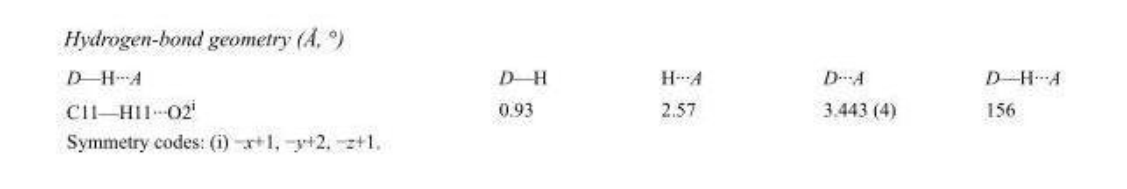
<table><tbody><tr><td>D—H···A</td><td>D—H</td><td>H···A</td><td>D···A</td><td>D—H···A</td></tr><tr><td>C11—H11···O2<sup>i</sup></td><td>0.93</td><td>2.57</td><td>3.443 (4)</td><td>156</td></tr></tbody></table>